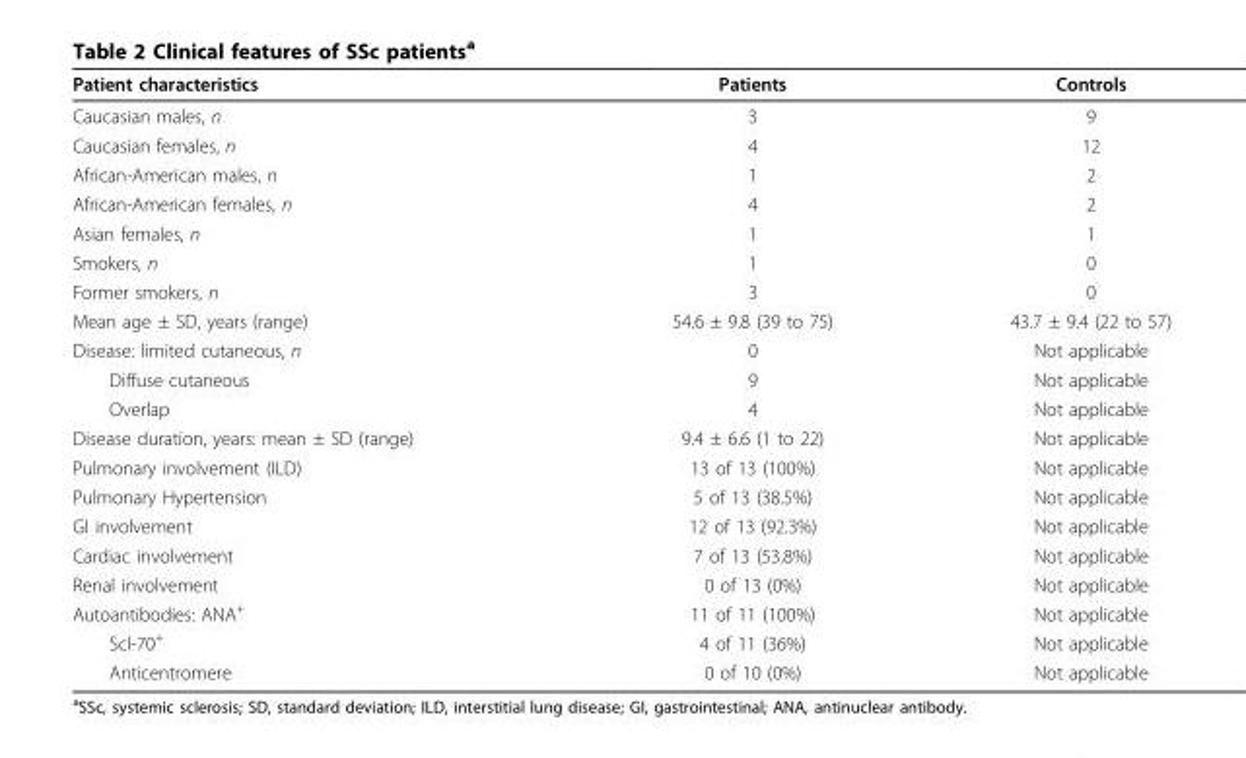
<table><thead><tr><td>Patient characteristics</td><td>Patients</td><td>Controls</td></tr></thead><tbody><tr><td>Caucasian males, n</td><td>3</td><td>9</td></tr><tr><td>Caucasian females, n</td><td>4</td><td>12</td></tr><tr><td>African-American males, n</td><td>1</td><td>2</td></tr><tr><td>African-American females, n</td><td>4</td><td>2</td></tr><tr><td>Asian females, n</td><td>1</td><td>1</td></tr><tr><td>Smokers, n</td><td>1</td><td>0</td></tr><tr><td>Former smokers, n</td><td>3</td><td>0</td></tr><tr><td>Mean age ± SD, years (range)</td><td>54.6 ± 9.8 (39 to 75)</td><td>43.7 ± 9.4 (22 to 57)</td></tr><tr><td>Disease: limited cutaneous, n</td><td>0</td><td>Not applicable</td></tr><tr><td>Diffuse cutaneous</td><td>9</td><td>Not applicable</td></tr><tr><td>Overlap</td><td>4</td><td>Not applicable</td></tr><tr><td>Disease duration, years: mean ± SD (range)</td><td>9.4 ± 6.6 (1 to 22)</td><td>Not applicable</td></tr><tr><td>Pulmonary involvement (ILD)</td><td>13 of 13 (100%)</td><td>Not applicable</td></tr><tr><td>Pulmonary Hypertension</td><td>5 of 13 (38.5%)</td><td>Not applicable</td></tr><tr><td>GI involvement</td><td>12 of 13 (92.3%)</td><td>Not applicable</td></tr><tr><td>Cardiac involvement</td><td>7 of 13 (53.8%)</td><td>Not applicable</td></tr><tr><td>Renal involvement</td><td>0 of 13 (0%)</td><td>Not applicable</td></tr><tr><td>Autoantibodies: ANA<sup>+</sup></td><td>11 of 11 (100%)</td><td>Not applicable</td></tr><tr><td>Scl-70<sup>+</sup></td><td>4 of 11 (36%)</td><td>Not applicable</td></tr><tr><td>Anticentromere</td><td>0 of 10 (0%)</td><td>Not applicable</td></tr></tbody></table>